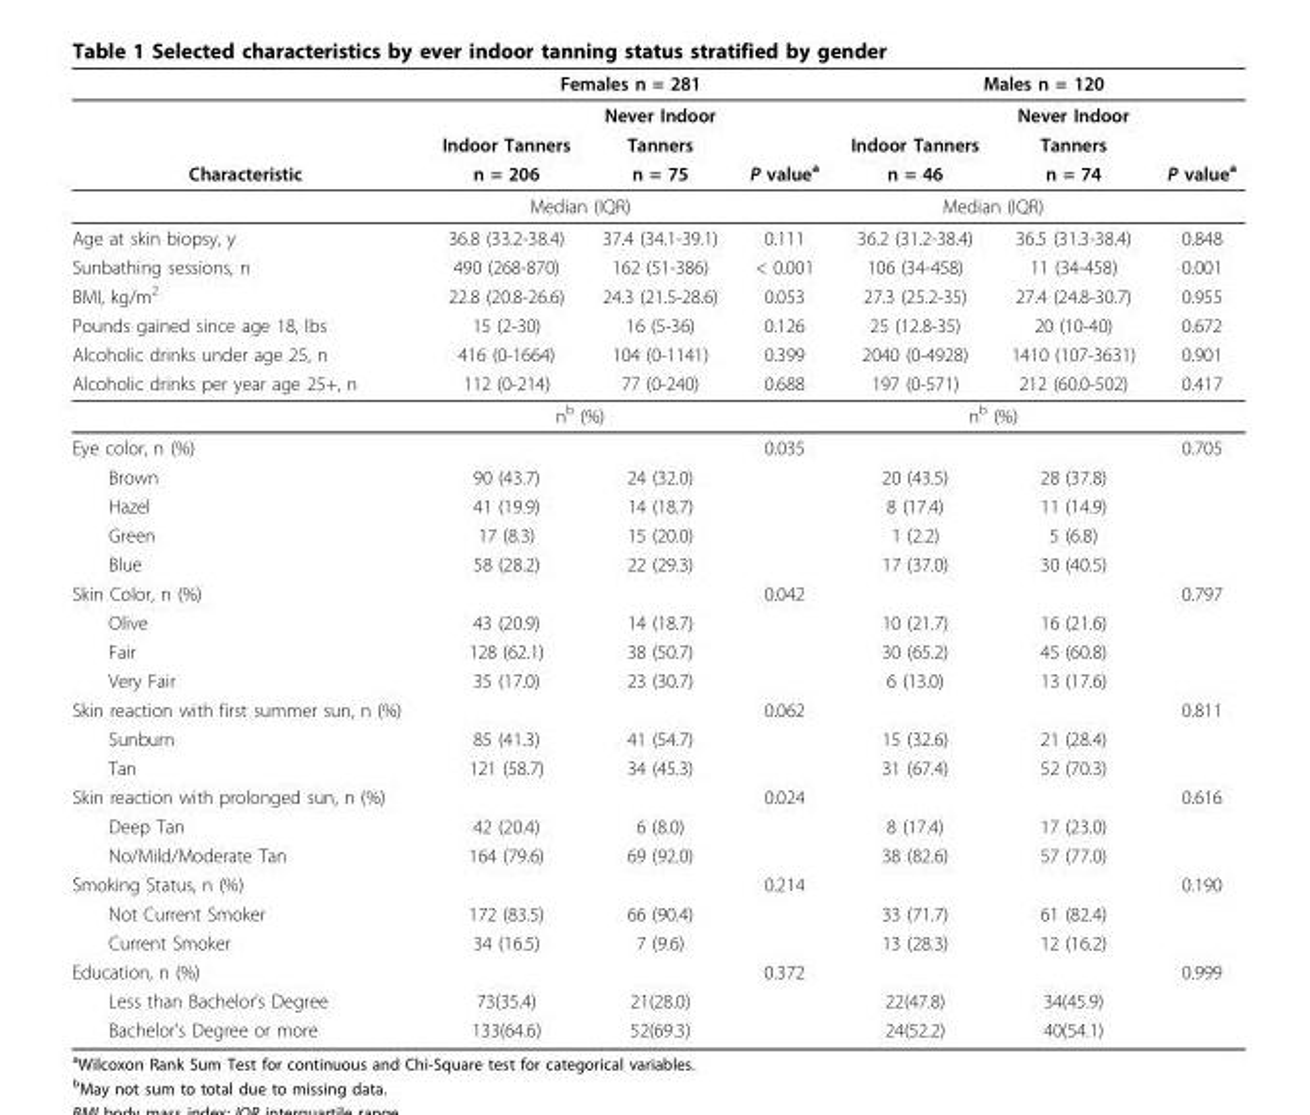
<table><thead><tr><td rowspan="2"></td><td colspan="3">Females n = 281</td><td colspan="3">Males n = 120</td></tr><tr><td></td><td>Never Indoor</td><td></td><td></td><td>Never Indoor</td><td></td></tr></thead><tbody><tr><td></td><td>Indoor Tanners</td><td>Tanners</td><td></td><td>Indoor Tanners</td><td>Tanners</td><td></td></tr><tr><td rowspan="2">Characteristic</td><td>n = 206</td><td>n = 75</td><td>P value<sup>a</sup></td><td>n = 46</td><td>n = 74</td><td>P value<sup>a</sup></td></tr><tr><td colspan="2">Median (IQR)</td><td></td><td colspan="2">Median (IQR)</td><td></td></tr><tr><td>Age at skin biopsy, y</td><td>36.8 (33.2-38.4)</td><td>37.4 (34.1-39.1)</td><td>0.111</td><td>36.2 (31.2-38.4)</td><td>36.5 (31.3-38.4)</td><td>0.848</td></tr><tr><td>Sunbathing sessions, n</td><td>490 (268-870)</td><td>162 (51-386)</td><td>&lt; 0.001</td><td>106 (34-458)</td><td>11 (34-458)</td><td>0.001</td></tr><tr><td>BMI, kg/m<sup>2</sup></td><td>22.8 (20.8-26.6)</td><td>24.3 (21.5-28.6)</td><td>0.053</td><td>27.3 (25.2-35)</td><td>27.4 (24.8-30.7)</td><td>0.955</td></tr><tr><td>Pounds gained since age 18, lbs</td><td>15 (2-30)</td><td>16 (5-36)</td><td>0.126</td><td>25 (12.8-35)</td><td>20 (10-40)</td><td>0.672</td></tr><tr><td>Alcoholic drinks under age 25, n</td><td>416 (0-1664)</td><td>104 (0-1141)</td><td>0.399</td><td>2040 (0-4928)</td><td>1410 (107-3631)</td><td>0.901</td></tr><tr><td rowspan="2">Alcoholic drinks per year age 25+, n</td><td>112 (0-214)</td><td>77 (0-240)</td><td>0.688</td><td>197 (0-571)</td><td>212 (60.0-502)</td><td>0.417</td></tr><tr><td colspan="2">n<sup>b</sup> (%)</td><td></td><td colspan="2">n<sup>b</sup> (%)</td><td></td></tr><tr><td>Eye color, n (%)</td><td></td><td></td><td>0.035</td><td></td><td></td><td>0.705</td></tr><tr><td>Brown</td><td>90 (43.7)</td><td>24 (32.0)</td><td></td><td>20 (43.5)</td><td>28 (37.8)</td><td></td></tr><tr><td>Hazel</td><td>41 (19.9)</td><td>14 (18.7)</td><td></td><td>8 (17.4)</td><td>11 (14.9)</td><td></td></tr><tr><td>Green</td><td>17 (8.3)</td><td>15 (20.0)</td><td></td><td>1 (2.2)</td><td>5 (6.8)</td><td></td></tr><tr><td>Blue</td><td>58 (28.2)</td><td>22 (29.3)</td><td></td><td>17 (37.0)</td><td>30 (40.5)</td><td></td></tr><tr><td>Skin Color, n (%)</td><td></td><td></td><td>0.042</td><td></td><td></td><td>0.797</td></tr><tr><td>Olive</td><td>43 (20.9)</td><td>14 (18.7)</td><td></td><td>10 (21.7)</td><td>16 (21.6)</td><td></td></tr><tr><td>Fair</td><td>128 (62.1)</td><td>38 (50.7)</td><td></td><td>30 (65.2)</td><td>45 (60.8)</td><td></td></tr><tr><td>Very Fair</td><td>35 (17.0)</td><td>23 (30.7)</td><td></td><td>6 (13.0)</td><td>13 (17.6)</td><td></td></tr><tr><td>Skin reaction with first summer sun, n (%)</td><td></td><td></td><td>0.062</td><td></td><td></td><td>0.811</td></tr><tr><td>Sunburn</td><td>85 (41.3)</td><td>41 (54.7)</td><td></td><td>15 (32.6)</td><td>21 (28.4)</td><td></td></tr><tr><td>Tan</td><td>121 (58.7)</td><td>34 (45.3)</td><td></td><td>31 (67.4)</td><td>52 (70.3)</td><td></td></tr><tr><td>Skin reaction with prolonged sun, n (%)</td><td></td><td></td><td>0.024</td><td></td><td></td><td>0.616</td></tr><tr><td>Deep Tan</td><td>42 (20.4)</td><td>6 (8.0)</td><td></td><td>8 (17.4)</td><td>17 (23.0)</td><td></td></tr><tr><td>No/Mild/Moderate Tan</td><td>164 (79.6)</td><td>69 (92.0)</td><td></td><td>38 (82.6)</td><td>57 (77.0)</td><td></td></tr><tr><td>Smoking Status, n (%)</td><td></td><td></td><td>0.214</td><td></td><td></td><td>0.190</td></tr><tr><td>Not Current Smoker</td><td>172 (83.5)</td><td>66 (90.4)</td><td></td><td>33 (71.7)</td><td>61 (82.4)</td><td></td></tr><tr><td>Current Smoker</td><td>34 (16.5)</td><td>7 (9.6)</td><td></td><td>13 (28.3)</td><td>12 (16.2)</td><td></td></tr><tr><td>Education, n (%)</td><td></td><td></td><td>0.372</td><td></td><td></td><td>0.999</td></tr><tr><td>Less than Bachelor’s Degree</td><td>73(35.4)</td><td>21(28.0)</td><td></td><td>22(47.8)</td><td>34(45.9)</td><td></td></tr><tr><td>Bachelor’s Degree or more</td><td>133(64.6)</td><td>52(69.3)</td><td></td><td>24(52.2)</td><td>40(54.1)</td><td></td></tr></tbody></table>